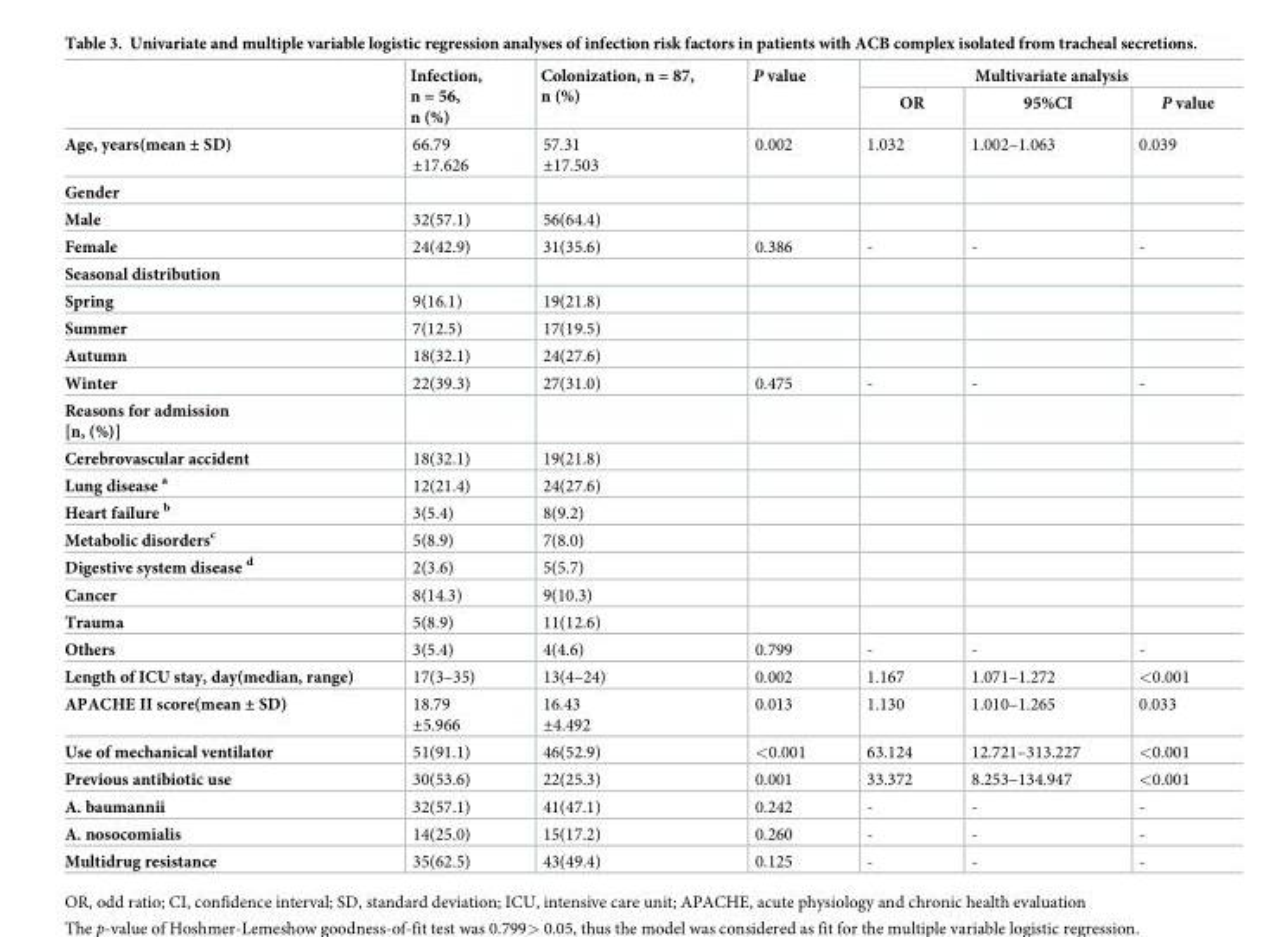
<table><thead><tr><td rowspan="2"></td><td rowspan="2">Infection, n = 56, n (%)</td><td rowspan="2">Colonization, n = 87, n (%)</td><td rowspan="2">P value</td><td colspan="3">Multivariate analysis</td></tr><tr><td>OR</td><td>95%CI</td><td>P value</td></tr></thead><tbody><tr><td>Age, years(mean ± SD)</td><td>66.79 ±17.626</td><td>57.31 ±17.503</td><td>0.002</td><td>1.032</td><td>1.002–1.063</td><td>0.039</td></tr><tr><td colspan="7">Gender</td></tr><tr><td>Male</td><td>32(57.1)</td><td>56(64.4)</td><td></td><td></td><td></td><td></td></tr><tr><td>Female</td><td>24(42.9)</td><td>31(35.6)</td><td>0.386</td><td>-</td><td>-</td><td>-</td></tr><tr><td colspan="7">Seasonal distribution</td></tr><tr><td>Spring</td><td>9(16.1)</td><td>19(21.8)</td><td></td><td></td><td></td><td></td></tr><tr><td>Summer</td><td>7(12.5)</td><td>17(19.5)</td><td></td><td></td><td></td><td></td></tr><tr><td>Autumn</td><td>18(32.1)</td><td>24(27.6)</td><td></td><td></td><td></td><td></td></tr><tr><td>Winter</td><td>22(39.3)</td><td>27(31.0)</td><td>0.475</td><td>-</td><td>-</td><td>-</td></tr><tr><td colspan="7">Reasons for admission [n, (%)]</td></tr><tr><td>Cerebrovascular accident</td><td>18(32.1)</td><td>19(21.8)</td><td></td><td></td><td></td><td></td></tr><tr><td>Lung disease <sup>a</sup></td><td>12(21.4)</td><td>24(27.6)</td><td></td><td></td><td></td><td></td></tr><tr><td>Heart failure <sup>b</sup></td><td>3(5.4)</td><td>8(9.2)</td><td></td><td></td><td></td><td></td></tr><tr><td>Metabolic disorders<sup>c</sup></td><td>5(8.9)</td><td>7(8.0)</td><td></td><td></td><td></td><td></td></tr><tr><td>Digestive system disease <sup>d</sup></td><td>2(3.6)</td><td>5(5.7)</td><td></td><td></td><td></td><td></td></tr><tr><td>Cancer</td><td>8(14.3)</td><td>9(10.3)</td><td></td><td></td><td></td><td></td></tr><tr><td>Trauma</td><td>5(8.9)</td><td>11(12.6)</td><td></td><td></td><td></td><td></td></tr><tr><td>Others</td><td>3(5.4)</td><td>4(4.6)</td><td>0.799</td><td>-</td><td>-</td><td>-</td></tr><tr><td>Length of ICU stay, day(median, range)</td><td>17(3–35)</td><td>13(4–24)</td><td>0.002</td><td>1.167</td><td>1.071–1.272</td><td>&lt;0.001</td></tr><tr><td>APACHE II score(mean ± SD)</td><td>18.79 ±5.966</td><td>16.43 ±4.492</td><td>0.013</td><td>1.130</td><td>1.010–1.265</td><td>0.033</td></tr><tr><td>Use of mechanical ventilator</td><td>51(91.1)</td><td>46(52.9)</td><td>&lt;0.001</td><td>63.124</td><td>12.721–313.227</td><td>&lt;0.001</td></tr><tr><td>Previous antibiotic use</td><td>30(53.6)</td><td>22(25.3)</td><td>0.001</td><td>33.372</td><td>8.253–134.947</td><td>&lt;0.001</td></tr><tr><td>A. baumannii</td><td>32(57.1)</td><td>41(47.1)</td><td>0.242</td><td>-</td><td>-</td><td>-</td></tr><tr><td>A. nosocomialis</td><td>14(25.0)</td><td>15(17.2)</td><td>0.260</td><td>-</td><td>-</td><td>-</td></tr><tr><td>Multidrug resistance</td><td>35(62.5)</td><td>43(49.4)</td><td>0.125</td><td>-</td><td>-</td><td>-</td></tr></tbody></table>